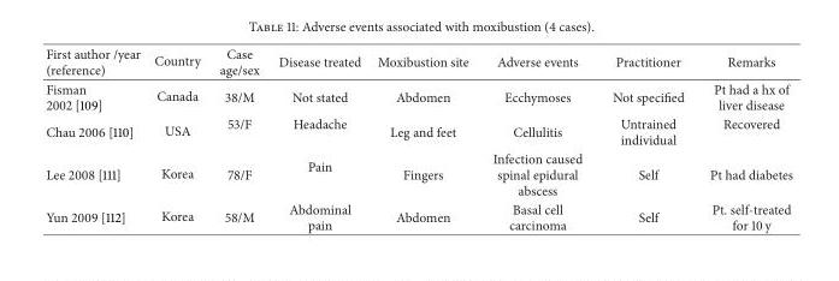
<table><thead><tr><td>First author /year (reference)</td><td>Country</td><td>Case age/sex</td><td>Disease treated</td><td>Moxibustion site</td><td>Adverse events</td><td>Practitioner</td><td>Remarks</td></tr></thead><tbody><tr><td>Fisman 2002 [109]</td><td>Canada</td><td>38/M</td><td>Not stated</td><td>Abdomen</td><td>Ecchymoses</td><td>Not specified</td><td>Pt had a hx of liver disease</td></tr><tr><td>Chau 2006 [110]</td><td>USA</td><td>53/F</td><td>Headache</td><td>Leg and feet</td><td>Cellulitis</td><td>Untrained individual</td><td>Recovered</td></tr><tr><td>Lee 2008 [111]</td><td>Korea</td><td>78/F</td><td>Pain</td><td>Fingers</td><td>Infection caused spinal epidural abscess</td><td>Self</td><td>Pt had diabetes</td></tr><tr><td>Yun 2009 [112]</td><td>Korea</td><td>58/M</td><td>Abdominal pain</td><td>Abdomen</td><td>Basal cell carcinoma</td><td>Self</td><td>Pt. self-treated for 10 y</td></tr></tbody></table>